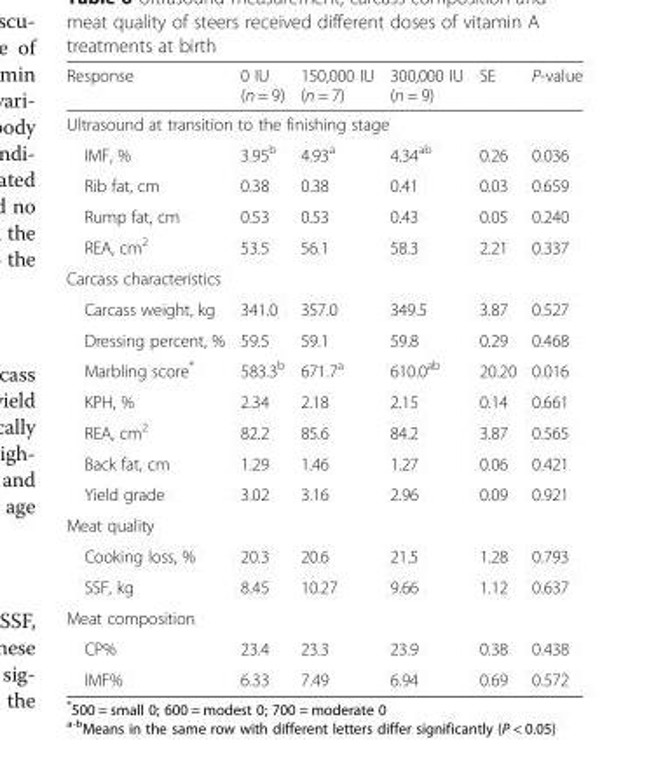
<table><thead><tr><td>Response</td><td>0 IU (n = 9)</td><td>150,000 IU (n = 7)</td><td>300,000 IU (n = 9)</td><td>SE</td><td>P-value</td></tr></thead><tbody><tr><td colspan="6">Ultrasound at transition to the finishing stage</td></tr><tr><td>IMF, %</td><td>3.95<sup>b</sup></td><td>4.93<sup>a</sup></td><td>4.34<sup>ab</sup></td><td>0.26</td><td>0.036</td></tr><tr><td>Rib fat, cm</td><td>0.38</td><td>0.38</td><td>0.41</td><td>0.03</td><td>0.659</td></tr><tr><td>Rump fat, cm</td><td>0.53</td><td>0.53</td><td>0.43</td><td>0.05</td><td>0.240</td></tr><tr><td>REA, cm<sup>2</sup></td><td>53.5</td><td>56.1</td><td>58.3</td><td>2.21</td><td>0.337</td></tr><tr><td colspan="6">Carcass characteristics</td></tr><tr><td>Carcass weight, kg</td><td>341.0</td><td>357.0</td><td>349.5</td><td>3.87</td><td>0.527</td></tr><tr><td>Dressing percent, %</td><td>59.5</td><td>59.1</td><td>59.8</td><td>0.29</td><td>0.468</td></tr><tr><td>Marbling score*</td><td>583.3<sup>b</sup></td><td>671.7<sup>a</sup></td><td>610.0<sup>ab</sup></td><td>20.20</td><td>0.016</td></tr><tr><td>KPH, %</td><td>2.34</td><td>2.18</td><td>2.15</td><td>0.14</td><td>0.661</td></tr><tr><td>REA, cm<sup>2</sup></td><td>82.2</td><td>85.6</td><td>84.2</td><td>3.87</td><td>0.565</td></tr><tr><td>Back fat, cm</td><td>1.29</td><td>1.46</td><td>1.27</td><td>0.06</td><td>0.421</td></tr><tr><td>Yield grade</td><td>3.02</td><td>3.16</td><td>2.96</td><td>0.09</td><td>0.921</td></tr><tr><td colspan="6">Meat quality</td></tr><tr><td>Cooking loss, %</td><td>20.3</td><td>20.6</td><td>21.5</td><td>1.28</td><td>0.793</td></tr><tr><td>SSF, kg</td><td>8.45</td><td>10.27</td><td>9.66</td><td>1.12</td><td>0.637</td></tr><tr><td colspan="6">Meat composition</td></tr><tr><td>CP%</td><td>23.4</td><td>23.3</td><td>23.9</td><td>0.38</td><td>0.438</td></tr><tr><td>IMF%</td><td>6.33</td><td>7.49</td><td>6.94</td><td>0.69</td><td>0.572</td></tr></tbody></table>